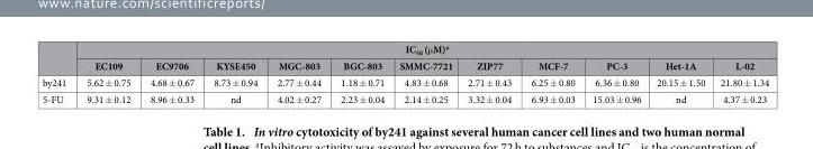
<table><thead><tr><td rowspan="2"></td><td colspan="11">IC<sub>50</sub> (μ M)<sup>a</sup></td></tr><tr><td>EC109</td><td>EC9706</td><td>KYSE450</td><td>MGC-803</td><td>BGC-803</td><td>SMMC-7721</td><td>ZIP77</td><td>MCF-7</td><td>PC-3</td><td>Het-1A</td><td>L-02</td></tr></thead><tbody><tr><td>by241</td><td>5.62 ± 0.75</td><td>4.68 ± 0.67</td><td>8.73 ± 0.94</td><td>2.77 ± 0.44</td><td>1.18 ± 0.71</td><td>4.83 ± 0.68</td><td>2.71 ± 0.43</td><td>6.25 ± 0.80</td><td>6.36 ± 0.80</td><td>20.15 ± 1.50</td><td>21.80 ± 1.34</td></tr><tr><td>5-FU</td><td>9.31 ± 0.12</td><td>8.96 ± 0.33</td><td>nd</td><td>4.02 ± 0.27</td><td>2.23 ± 0.04</td><td>2.14 ± 0.25</td><td>3.32 ± 0.04</td><td>6.93 ± 0.03</td><td>15.03 ± 0.96</td><td>nd</td><td>4.37 ± 0.23</td></tr></tbody></table>